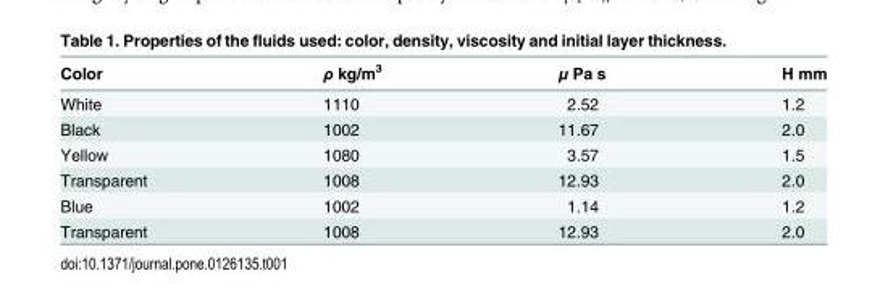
<table><thead><tr><td>Color</td><td>ρ kg/m<sup>3</sup></td><td>μ Pa s</td><td>H mm</td></tr></thead><tbody><tr><td>White</td><td>1110</td><td>2.52</td><td>1.2</td></tr><tr><td>Black</td><td>1002</td><td>11.67</td><td>2.0</td></tr><tr><td>Yellow</td><td>1080</td><td>3.57</td><td>1.5</td></tr><tr><td>Transparent</td><td>1008</td><td>12.93</td><td>2.0</td></tr><tr><td>Blue</td><td>1002</td><td>1.14</td><td>1.2</td></tr><tr><td>Transparent</td><td>1008</td><td>12.93</td><td>2.0</td></tr></tbody></table>